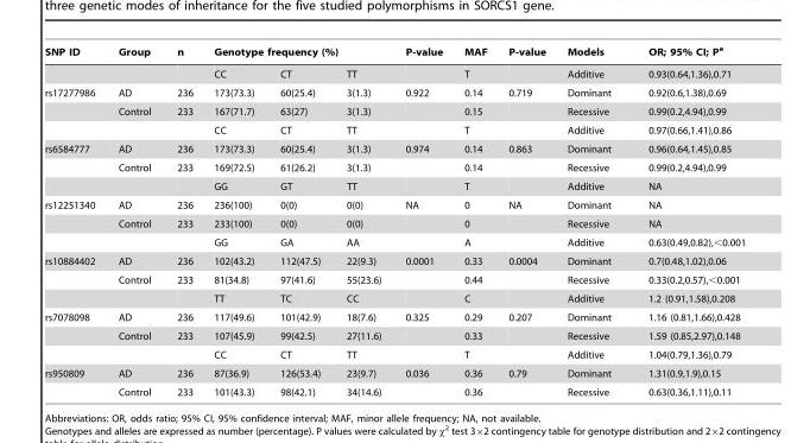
<table><thead><tr><td rowspan="2">SNP ID</td><td rowspan="2">Group</td><td rowspan="2">n</td><td colspan="3">Genotype frequency (%)</td><td rowspan="2">P-value</td><td rowspan="2">MAF T</td><td rowspan="2">P-value</td><td rowspan="2">Models Additive</td><td rowspan="2">OR; 95% CI; P<sup>a</sup> 0.93(0.64,1.36),0.71</td></tr><tr><td>CC</td><td>CT</td><td>TT</td></tr></thead><tbody><tr><td rowspan="3">rs17277986</td><td>AD</td><td>236</td><td>173(73.3)</td><td>60(25.4)</td><td>3(1.3)</td><td>0.922</td><td>0.14</td><td>0.719</td><td>Dominant</td><td>0.92(0.6,1.38),0.69</td></tr><tr><td>Control</td><td>233</td><td>167(71.7)</td><td>63(27)</td><td>3(1.3)</td><td></td><td>0.15</td><td></td><td>Recessive</td><td>0.99(0.2,4.94),0.99</td></tr><tr><td></td><td></td><td>CC</td><td>CT</td><td>TT</td><td></td><td>T</td><td></td><td>Additive</td><td>0.97(0.66,1.41),0.86</td></tr><tr><td rowspan="3">rs6584777</td><td>AD</td><td>236</td><td>173(73.3)</td><td>60(25.4)</td><td>3(1.3)</td><td>0.974</td><td>0.14</td><td>0.863</td><td>Dominant</td><td>0.96(0.64,1.45),0.85</td></tr><tr><td>Control</td><td>233</td><td>169(72.5)</td><td>61(26.2)</td><td>3(1.3)</td><td></td><td>0.14</td><td></td><td>Recessive</td><td>0.99(0.2,4.94),0.99</td></tr><tr><td></td><td></td><td>GG</td><td>GT</td><td>TT</td><td></td><td>T</td><td></td><td>Additive</td><td>NA</td></tr><tr><td rowspan="3">rs12251340</td><td>AD</td><td>236</td><td>236(100)</td><td>0(0)</td><td>0(0)</td><td>NA</td><td>0</td><td>NA</td><td>Dominant</td><td>NA</td></tr><tr><td>Control</td><td>233</td><td>233(100)</td><td>0(0)</td><td>0(0)</td><td></td><td>0</td><td></td><td>Recessive</td><td>NA</td></tr><tr><td></td><td></td><td>GG</td><td>GA</td><td>AA</td><td></td><td>A</td><td></td><td>Additive</td><td>0.63(0.49,0.82),&lt;0.001</td></tr><tr><td rowspan="3">rs10884402</td><td>AD</td><td>236</td><td>102(43.2)</td><td>112(47.5)</td><td>22(9.3)</td><td>0.0001</td><td>0.33</td><td>0.0004</td><td>Dominant</td><td>0.7(0.48,1.02),0.06</td></tr><tr><td>Control</td><td>233</td><td>81(34.8)</td><td>97(41.6)</td><td>55(23.6)</td><td></td><td>0.44</td><td></td><td>Recessive</td><td>0.33(0.2,0.57),&lt;0.001</td></tr><tr><td></td><td></td><td>TT</td><td>TC</td><td>CC</td><td></td><td>C</td><td></td><td>Additive</td><td>1.2 (0.91,1.58),0.208</td></tr><tr><td rowspan="3">rs7078098</td><td>AD</td><td>236</td><td>117(49.6)</td><td>101(42.9)</td><td>18(7.6)</td><td>0.325</td><td>0.29</td><td>0.207</td><td>Dominant</td><td>1.16 (0.81,1.66),0.428</td></tr><tr><td>Control</td><td>233</td><td>107(45.9)</td><td>99(42.5)</td><td>27(11.6)</td><td></td><td>0.33</td><td></td><td>Recessive</td><td>1.59 (0.85,2.97),0.148</td></tr><tr><td></td><td></td><td>CC</td><td>CT</td><td>TT</td><td></td><td>T</td><td></td><td>Additive</td><td>1.04(0.79,1.36),0.79</td></tr><tr><td rowspan="2">rs950809</td><td>AD</td><td>236</td><td>87(36.9)</td><td>126(53.4)</td><td>23(9.7)</td><td>0.036</td><td>0.36</td><td>0.79</td><td>Dominant</td><td>1.31(0.9,1.9),0.15</td></tr><tr><td>Control</td><td>233</td><td>101(43.3)</td><td>98(42.1)</td><td>34(14.6)</td><td></td><td>0.36</td><td></td><td>Recessive</td><td>0.63(0.36,1.11),0.11</td></tr></tbody></table>